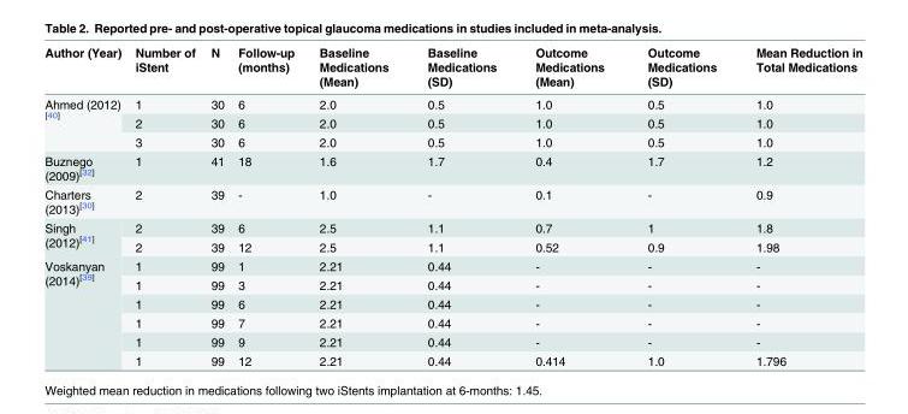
<table><thead><tr><td>Author (Year)</td><td>Number of iStent</td><td>N</td><td>Follow-up (months)</td><td>Baseline Medications (Mean)</td><td>Baseline Medications (SD)</td><td>Outcome Medications (Mean)</td><td>Outcome Medications (SD)</td><td>Mean Reduction in Total Medications</td></tr></thead><tbody><tr><td rowspan="3">Ahmed (2012) <sup>[40]</sup></td><td>1</td><td>30</td><td>6</td><td>2.0</td><td>0.5</td><td>1.0</td><td>0.5</td><td>1.0</td></tr><tr><td>2</td><td>30</td><td>6</td><td>2.0</td><td>0.5</td><td>1.0</td><td>0.5</td><td>1.0</td></tr><tr><td>3</td><td>30</td><td>6</td><td>2.0</td><td>0.5</td><td>1.0</td><td>0.5</td><td>1.0</td></tr><tr><td>Buznego (2009)<sup>[32]</sup></td><td>1</td><td>41</td><td>18</td><td>1.6</td><td>1.7</td><td>0.4</td><td>1.7</td><td>1.2</td></tr><tr><td>Charters (2013)<sup>[30]</sup></td><td>2</td><td>39</td><td>-</td><td>1.0</td><td>-</td><td>0.1</td><td>-</td><td>0.9</td></tr><tr><td rowspan="2">Singh (2012)<sup>[41]</sup></td><td>2</td><td>39</td><td>6</td><td>2.5</td><td>1.1</td><td>0.7</td><td>1</td><td>1.8</td></tr><tr><td>2</td><td>39</td><td>12</td><td>2.5</td><td>1.1</td><td>0.52</td><td>0.9</td><td>1.98</td></tr><tr><td rowspan="6">Voskanyan (2014)<sup>[39]</sup></td><td>1</td><td>99</td><td>1</td><td>2.21</td><td>0.44</td><td>-</td><td>-</td><td>-</td></tr><tr><td>1</td><td>99</td><td>3</td><td>2.21</td><td>0.44</td><td>-</td><td>-</td><td>-</td></tr><tr><td>1</td><td>99</td><td>6</td><td>2.21</td><td>0.44</td><td>-</td><td>-</td><td>-</td></tr><tr><td>1</td><td>99</td><td>7</td><td>2.21</td><td>0.44</td><td>-</td><td>-</td><td>-</td></tr><tr><td>1</td><td>99</td><td>9</td><td>2.21</td><td>0.44</td><td>-</td><td>-</td><td>-</td></tr><tr><td>1</td><td>99</td><td>12</td><td>2.21</td><td>0.44</td><td>0.414</td><td>1.0</td><td>1.796</td></tr></tbody></table>